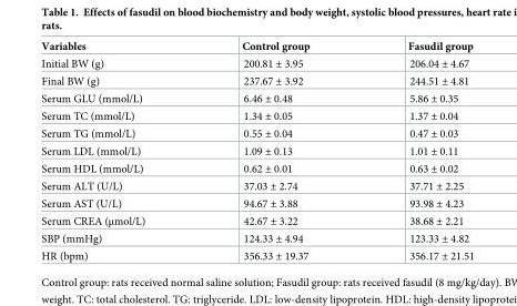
<table><thead><tr><td>Variables</td><td>Control group</td><td>Fasudil group</td></tr></thead><tbody><tr><td>Initial BW (g)</td><td>200.81 ± 3.95</td><td>206.04 ± 4.67</td></tr><tr><td>Final BW (g)</td><td>237.67 ± 3.92</td><td>244.51 ± 4.81</td></tr><tr><td>Serum GLU (mmol/L)</td><td>6.46 ± 0.48</td><td>5.86 ± 0.35</td></tr><tr><td>Serum TC (mmol/L)</td><td>1.34 ± 0.05</td><td>1.37 ± 0.04</td></tr><tr><td>Serum TG (mmol/L)</td><td>0.55 ± 0.04</td><td>0.47 ± 0.03</td></tr><tr><td>Serum LDL (mmol/L)</td><td>1.09 ± 0.13</td><td>1.01 ± 0.11</td></tr><tr><td>Serum HDL (mmol/L)</td><td>0.62 ± 0.01</td><td>0.63 ± 0.02</td></tr><tr><td>Serum ALT (U/L)</td><td>37.03 ± 2.74</td><td>37.71 ± 2.25</td></tr><tr><td>Serum AST (U/L)</td><td>94.67 ± 3.88</td><td>93.98 ± 4.23</td></tr><tr><td>Serum CREA (μmol/L)</td><td>42.67 ± 3.22</td><td>38.68 ± 2.21</td></tr><tr><td>SBP (mmHg)</td><td>124.33 ± 4.94</td><td>123.33 ± 4.82</td></tr><tr><td>HR (bpm)</td><td>356.33 ± 19.37</td><td>356.17 ± 21.51</td></tr></tbody></table>